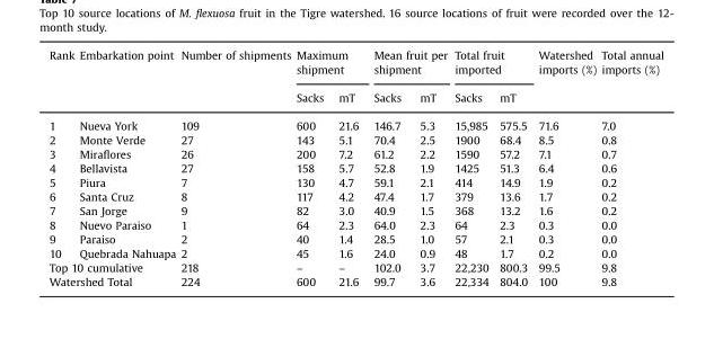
<table><thead><tr><td rowspan="2">Rank</td><td rowspan="2">Embarkation point</td><td rowspan="2">Number of shipments</td><td colspan="2">Maximum shipment</td><td colspan="2">Mean fruit per shipment</td><td colspan="2">Total fruit imported</td><td rowspan="2">Watershed imports (%)</td><td rowspan="2">Total annual imports (%)</td></tr><tr><td>Sacks</td><td>mT</td><td>Sacks</td><td>mT</td><td>Sacks</td><td>mT</td></tr></thead><tbody><tr><td>1</td><td>Nueva York</td><td>109</td><td>600</td><td>21.6</td><td>146.7</td><td>5.3</td><td>15,985</td><td>575.5</td><td>71.6</td><td>7.0</td></tr><tr><td>2</td><td>Monte Verde</td><td>27</td><td>143</td><td>5.1</td><td>70.4</td><td>2.5</td><td>1900</td><td>68.4</td><td>8.5</td><td>0.8</td></tr><tr><td>3</td><td>Miraflores</td><td>26</td><td>200</td><td>7.2</td><td>61.2</td><td>2.2</td><td>1590</td><td>57.2</td><td>7.1</td><td>0.7</td></tr><tr><td>4</td><td>Bellavista</td><td>27</td><td>158</td><td>5.7</td><td>52.8</td><td>1.9</td><td>1425</td><td>51.3</td><td>6.4</td><td>0.6</td></tr><tr><td>5</td><td>Piura</td><td>7</td><td>130</td><td>4.7</td><td>59.1</td><td>2.1</td><td>414</td><td>14.9</td><td>1.9</td><td>0.2</td></tr><tr><td>6</td><td>Santa Cruz</td><td>8</td><td>117</td><td>4.2</td><td>47.4</td><td>1.7</td><td>379</td><td>13.6</td><td>1.7</td><td>0.2</td></tr><tr><td>7</td><td>San Jorge</td><td>9</td><td>82</td><td>3.0</td><td>40.9</td><td>1.5</td><td>368</td><td>13.2</td><td>1.6</td><td>0.2</td></tr><tr><td>8</td><td>Nuevo Paraiso</td><td>1</td><td>64</td><td>2.3</td><td>64.0</td><td>2.3</td><td>64</td><td>2.3</td><td>0.3</td><td>0.0</td></tr><tr><td>9</td><td>Paraiso</td><td>2</td><td>40</td><td>1.4</td><td>28.5</td><td>1.0</td><td>57</td><td>2.1</td><td>0.3</td><td>0.0</td></tr><tr><td>10</td><td>Quebrada Nahuapa</td><td>2</td><td>45</td><td>1.6</td><td>24.0</td><td>0.9</td><td>48</td><td>1.7</td><td>0.2</td><td>0.0</td></tr><tr><td colspan="2">Top 10 cumulative</td><td>218</td><td>–</td><td>–</td><td>102.0</td><td>3.7</td><td>22,230</td><td>800.3</td><td>99.5</td><td>9.8</td></tr><tr><td colspan="2">Watershed Total</td><td>224</td><td>600</td><td>21.6</td><td>99.7</td><td>3.6</td><td>22,334</td><td>804.0</td><td>100</td><td>9.8</td></tr></tbody></table>